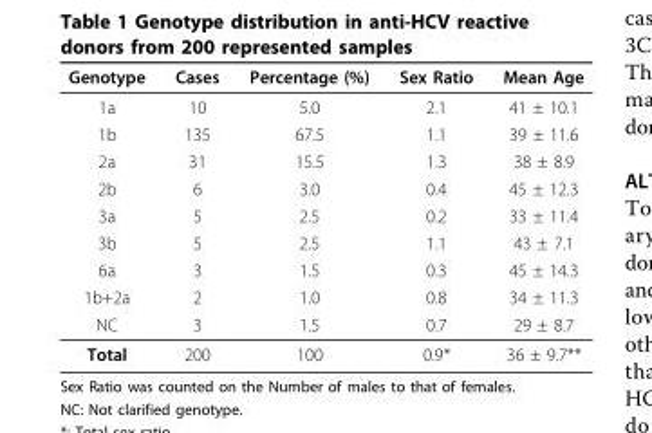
<table><thead><tr><td>Genotype</td><td>Cases</td><td>Percentage (%)</td><td>Sex Ratio</td><td>Mean Age</td></tr></thead><tbody><tr><td>1a</td><td>10</td><td>5.0</td><td>2.1</td><td>41 ± 10.1</td></tr><tr><td>1b</td><td>135</td><td>67.5</td><td>1.1</td><td>39 ± 11.6</td></tr><tr><td>2a</td><td>31</td><td>15.5</td><td>1.3</td><td>38 ± 8.9</td></tr><tr><td>2b</td><td>6</td><td>3.0</td><td>0.4</td><td>45 ± 12.3</td></tr><tr><td>3a</td><td>5</td><td>2.5</td><td>0.2</td><td>33 ± 11.4</td></tr><tr><td>3b</td><td>5</td><td>2.5</td><td>1.1</td><td>43 ± 7.1</td></tr><tr><td>6a</td><td>3</td><td>1.5</td><td>0.3</td><td>45 ± 14.3</td></tr><tr><td>1b+2a</td><td>2</td><td>1.0</td><td>0.8</td><td>34 ± 11.3</td></tr><tr><td>NC</td><td>3</td><td>1.5</td><td>0.7</td><td>29 ± 8.7</td></tr><tr><td>Total</td><td>200</td><td>100</td><td>0.9*</td><td>36 ± 9.7**</td></tr></tbody></table>